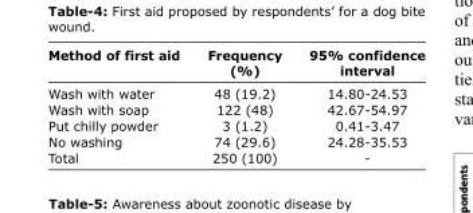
<table><thead><tr><td>Method of first aid</td><td>Frequency (%)</td><td>95% confidence interval</td></tr></thead><tbody><tr><td>Wash with water</td><td>48 (19.2)</td><td>14.80-24.53</td></tr><tr><td>Wash with soap</td><td>122 (48)</td><td>42.67-54.97</td></tr><tr><td>Put chilly powder</td><td>3 (1.2)</td><td>0.41-3.47</td></tr><tr><td>No washing</td><td>74 (29.6)</td><td>24.28-35.53</td></tr><tr><td>Total</td><td>250 (100)</td><td>-</td></tr></tbody></table>